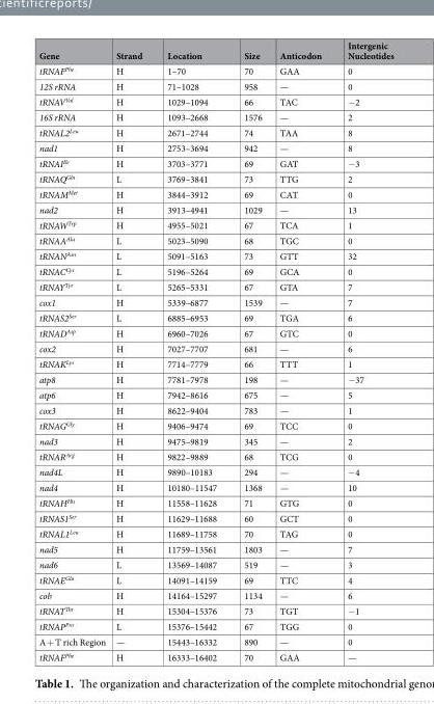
<table><thead><tr><td>Gene</td><td>Strand</td><td>Location</td><td>Size</td><td>Anticodon</td><td>Intergenic Nucleotides</td></tr></thead><tbody><tr><td>tRNAF<sup>Phe</sup></td><td>H</td><td>1–70</td><td>70</td><td>GAA</td><td>0</td></tr><tr><td>12S rRNA</td><td>H</td><td>71–1028</td><td>958</td><td>—</td><td>0</td></tr><tr><td>tRNAV<sup>Val</sup></td><td>H</td><td>1029–1094</td><td>66</td><td>TAC</td><td>−2</td></tr><tr><td>16S rRNA</td><td>H</td><td>1093–2668</td><td>1576</td><td>—</td><td>2</td></tr><tr><td>tRNAL2<sup>Leu</sup></td><td>H</td><td>2671–2744</td><td>74</td><td>TAA</td><td>8</td></tr><tr><td>nad1</td><td>H</td><td>2753–3694</td><td>942</td><td>—</td><td>8</td></tr><tr><td>tRNAI<sup>Ile</sup></td><td>H</td><td>3703–3771</td><td>69</td><td>GAT</td><td>−3</td></tr><tr><td>tRNAQ<sup>Gln</sup></td><td>L</td><td>3769–3841</td><td>73</td><td>TTG</td><td>2</td></tr><tr><td>tRNAM<sup>Met</sup></td><td>H</td><td>3844–3912</td><td>69</td><td>CAT</td><td>0</td></tr><tr><td>nad2</td><td>H</td><td>3913–4941</td><td>1029</td><td>—</td><td>13</td></tr><tr><td>tRNAW<sup>Trp</sup></td><td>H</td><td>4955–5021</td><td>67</td><td>TCA</td><td>1</td></tr><tr><td>tRNAA<sup>Ala</sup></td><td>L</td><td>5023–5090</td><td>68</td><td>TGC</td><td>0</td></tr><tr><td>tRNAN<sup>Asn</sup></td><td>L</td><td>5091–5163</td><td>73</td><td>GTT</td><td>32</td></tr><tr><td>tRNAC<sup>Cys</sup></td><td>L</td><td>5196–5264</td><td>69</td><td>GCA</td><td>0</td></tr><tr><td>tRNAY<sup>Tyr</sup></td><td>L</td><td>5265–5331</td><td>67</td><td>GTA</td><td>7</td></tr><tr><td>cox1</td><td>H</td><td>5339–6877</td><td>1539</td><td>—</td><td>7</td></tr><tr><td>tRNAS2<sup>Ser</sup></td><td>L</td><td>6885–6953</td><td>69</td><td>TGA</td><td>6</td></tr><tr><td>tRNAD<sup>Asp</sup></td><td>H</td><td>6960–7026</td><td>67</td><td>GTC</td><td>0</td></tr><tr><td>cox2</td><td>H</td><td>7027–7707</td><td>681</td><td>—</td><td>6</td></tr><tr><td>tRNAK<sup>Lys</sup></td><td>H</td><td>7714–7779</td><td>66</td><td>TTT</td><td>1</td></tr><tr><td>atp8</td><td>H</td><td>7781–7978</td><td>198</td><td>—</td><td>−37</td></tr><tr><td>atp6</td><td>H</td><td>7942–8616</td><td>675</td><td>—</td><td>5</td></tr><tr><td>cox3</td><td>H</td><td>8622–9404</td><td>783</td><td>—</td><td>1</td></tr><tr><td>tRNAG<sup>Gly</sup></td><td>H</td><td>9406–9474</td><td>69</td><td>TCC</td><td>0</td></tr><tr><td>nad3</td><td>H</td><td>9475–9819</td><td>345</td><td>—</td><td>2</td></tr><tr><td>tRNAR<sup>Arg</sup></td><td>H</td><td>9822–9889</td><td>68</td><td>TCG</td><td>0</td></tr><tr><td>nad4L</td><td>H</td><td>9890–10183</td><td>294</td><td>—</td><td>−4</td></tr><tr><td>nad4</td><td>H</td><td>10180–11547</td><td>1368</td><td>—</td><td>10</td></tr><tr><td>tRNAH<sup>His</sup></td><td>H</td><td>11558–11628</td><td>71</td><td>GTG</td><td>0</td></tr><tr><td>tRNAS1<sup>Ser</sup></td><td>H</td><td>11629–11688</td><td>60</td><td>GCT</td><td>0</td></tr><tr><td>tRNAL1<sup>Leu</sup></td><td>H</td><td>11689–11758</td><td>70</td><td>TAG</td><td>0</td></tr><tr><td>nad5</td><td>H</td><td>11759–13561</td><td>1803</td><td>—</td><td>7</td></tr><tr><td>nad6</td><td>L</td><td>13569–14087</td><td>519</td><td>—</td><td>3</td></tr><tr><td>tRNAE<sup>Glu</sup></td><td>L</td><td>14091–14159</td><td>69</td><td>TTC</td><td>4</td></tr><tr><td>cob</td><td>H</td><td>14164–15297</td><td>1134</td><td>—</td><td>6</td></tr><tr><td>tRNAT<sup>Thr</sup></td><td>H</td><td>15304–15376</td><td>73</td><td>TGT</td><td>−1</td></tr><tr><td>tRNAP<sup>Pro</sup></td><td>L</td><td>15376–15442</td><td>67</td><td>TGG</td><td>0</td></tr><tr><td>A + T rich Region</td><td>—</td><td>15443–16332</td><td>890</td><td>—</td><td>0</td></tr><tr><td>tRNAF<sup>Phe</sup></td><td>H</td><td>16333–16402</td><td>70</td><td>GAA</td><td>—</td></tr></tbody></table>